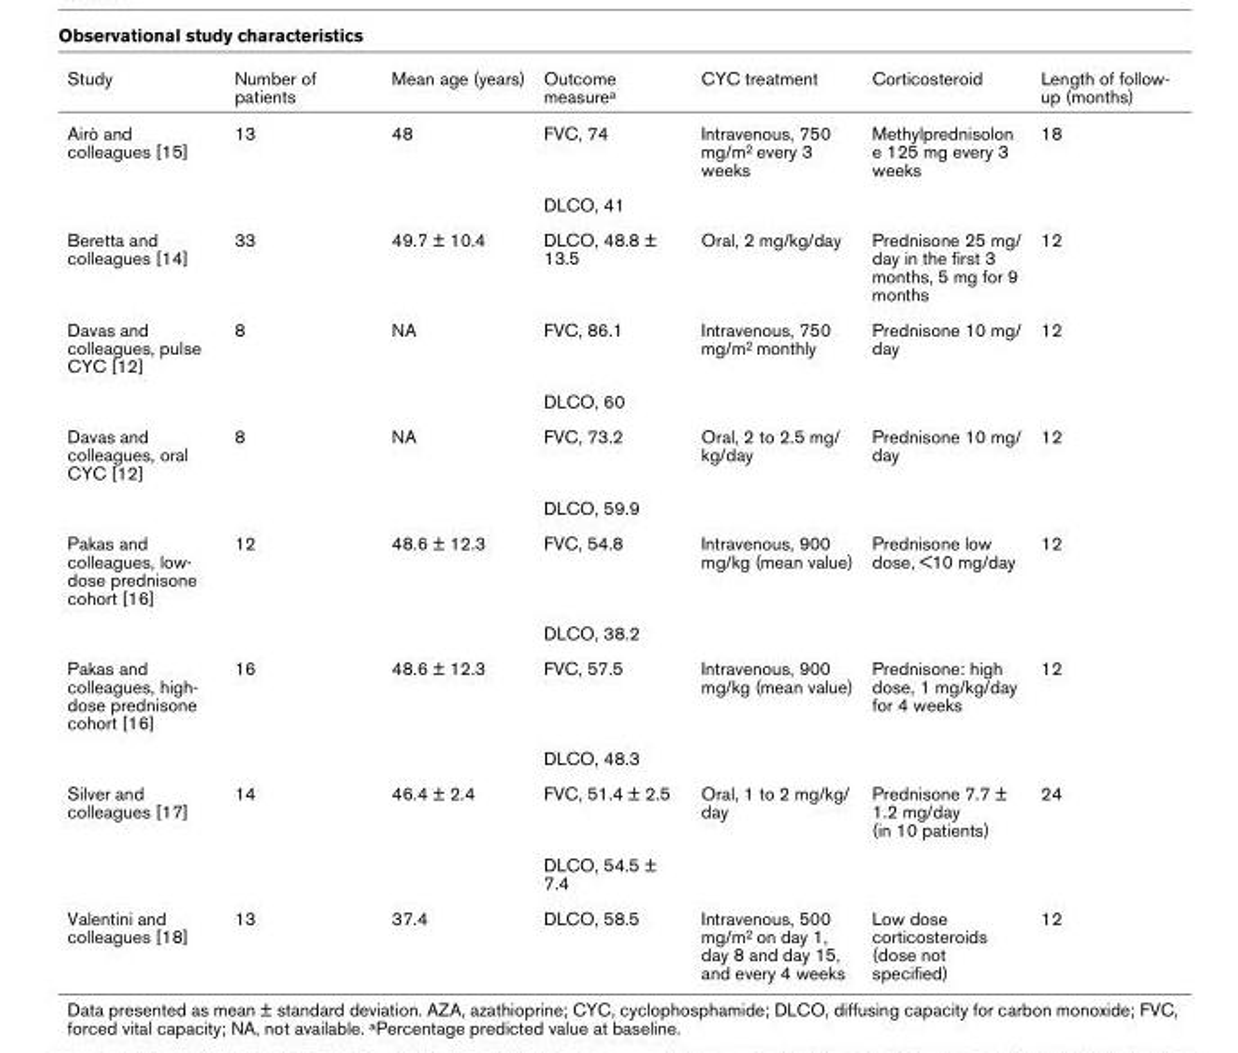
<table><thead><tr><td>Study</td><td>Number of patients</td><td>Mean age (years)</td><td>Outcome measure<sup>a</sup></td><td>CYC treatment</td><td>Corticosteroid</td><td>Length of follow- up (months)</td></tr></thead><tbody><tr><td rowspan="2">Airò and colleagues [15]</td><td>13</td><td>48</td><td>FVC, 74</td><td>Intravenous, 750 mg/m<sup>2</sup> every 3 weeks</td><td>Methylprednisolon e 125 mg every 3 weeks</td><td>18</td></tr><tr><td></td><td></td><td>DLCO, 41</td><td></td><td></td><td></td></tr><tr><td>Beretta and colleagues [14]</td><td>33</td><td>49.7 ± 10.4</td><td>DLCO, 48.8 ± 13.5</td><td>Oral, 2 mg/kg/day</td><td>Prednisone 25 mg/ day in the first 3 months, 5 mg for 9 months</td><td>12</td></tr><tr><td rowspan="2">Davas and colleagues, pulse CYC [12]</td><td>8</td><td>NA</td><td>FVC, 86.1</td><td>Intravenous, 750 mg/m<sup>2</sup> monthly</td><td>Prednisone 10 mg/ day</td><td>12</td></tr><tr><td></td><td></td><td>DLCO, 60</td><td></td><td></td><td></td></tr><tr><td rowspan="2">Davas and colleagues, oral CYC [12]</td><td>8</td><td>NA</td><td>FVC, 73.2</td><td>Oral, 2 to 2.5 mg/ kg/day</td><td>Prednisone 10 mg/ day</td><td>12</td></tr><tr><td></td><td></td><td>DLCO, 59.9</td><td></td><td></td><td></td></tr><tr><td rowspan="2">Pakas and colleagues, low- dose prednisone cohort [16]</td><td>12</td><td>48.6 ± 12.3</td><td>FVC, 54.8</td><td>Intravenous, 900 mg/kg (mean value)</td><td>Prednisone low dose, &lt;10 mg/day</td><td>12</td></tr><tr><td></td><td></td><td>DLCO, 38.2</td><td></td><td></td><td></td></tr><tr><td rowspan="2">Pakas and colleagues, high- dose prednisone cohort [16]</td><td>16</td><td>48.6 ± 12.3</td><td>FVC, 57.5</td><td>Intravenous, 900 mg/kg (mean value)</td><td>Prednisone: high dose, 1 mg/kg/day for 4 weeks</td><td>12</td></tr><tr><td></td><td></td><td>DLCO, 48.3</td><td></td><td></td><td></td></tr><tr><td rowspan="2">Silver and colleagues [17]</td><td>14</td><td>46.4 ± 2.4</td><td>FVC, 51.4 ± 2.5</td><td>Oral, 1 to 2 mg/kg/ day</td><td>Prednisone 7.7 ± 1.2 mg/day (in 10 patients)</td><td>24</td></tr><tr><td></td><td></td><td>DLCO, 54.5 ± 7.4</td><td></td><td></td><td></td></tr><tr><td>Valentini and colleagues [18]</td><td>13</td><td>37.4</td><td>DLCO, 58.5</td><td>Intravenous, 500 mg/m<sup>2</sup> on day 1, day 8 and day 15, and every 4 weeks</td><td>Low dose corticosteroids (dose not specified)</td><td>12</td></tr></tbody></table>